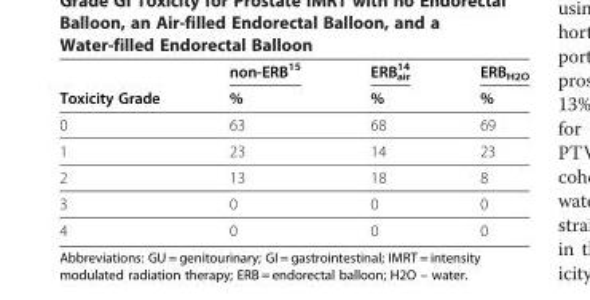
<table><thead><tr><td rowspan="2">Toxicity Grade</td><td rowspan="2">non-ERB<sup>15</sup> %</td><td rowspan="2">ERB<sub>air</sub> <sup>14</sup> %</td><td rowspan="2">ERB<sub>H2O</sub> %</td></tr><tr></tr></thead><tbody><tr><td>0</td><td>63</td><td>68</td><td>69</td></tr><tr><td>1</td><td>23</td><td>14</td><td>23</td></tr><tr><td>2</td><td>13</td><td>18</td><td>8</td></tr><tr><td>3</td><td>0</td><td>0</td><td>0</td></tr><tr><td>4</td><td>0</td><td>0</td><td>0</td></tr></tbody></table>